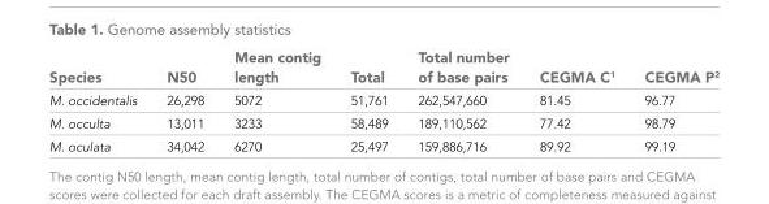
<table><thead><tr><td>Species</td><td>N50</td><td>Mean contig length</td><td>Total</td><td>Total number of base pairs</td><td>CEGMA C<sup>1</sup></td><td>CEGMA P<sup>2</sup></td></tr></thead><tbody><tr><td>M. occidentalis</td><td>26,298</td><td>5072</td><td>51,761</td><td>262,547,660</td><td>81.45</td><td>96.77</td></tr><tr><td>M. occulta</td><td>13,011</td><td>3233</td><td>58,489</td><td>189,110,562</td><td>77.42</td><td>98.79</td></tr><tr><td>M. oculata</td><td>34,042</td><td>6270</td><td>25,497</td><td>159,886,716</td><td>89.92</td><td>99.19</td></tr></tbody></table>